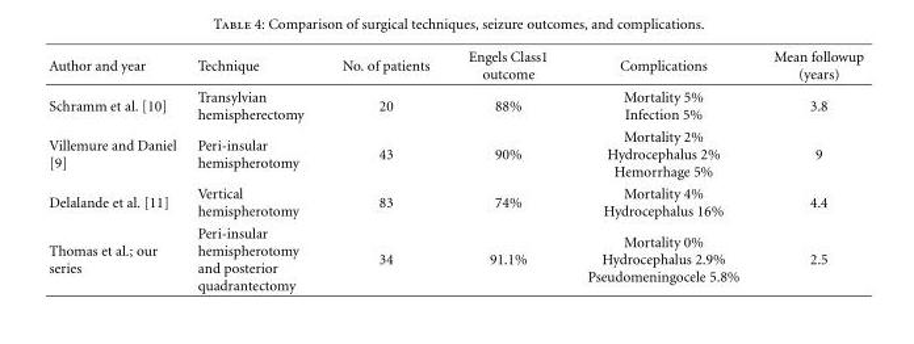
<table><thead><tr><td>Author and year</td><td>Technique</td><td>No. of patients</td><td>Engels Class1 outcome</td><td>Complications</td><td>Mean followup (years)</td></tr></thead><tbody><tr><td>Schramm et al. [10]</td><td>Transylvian hemispherectomy</td><td>20</td><td>88%</td><td>Mortality 5% Infection 5%</td><td>3.8</td></tr><tr><td>Villemure and Daniel [9]</td><td>Peri-insular hemispherotomy</td><td>43</td><td>90%</td><td>Mortality 2% Hydrocephalus 2% Hemorrhage 5%</td><td>9</td></tr><tr><td>Delalande et al. [11]</td><td>Vertical hemispherotomy</td><td>83</td><td>74%</td><td>Mortality 4% Hydrocephalus 16%</td><td>4.4</td></tr><tr><td>Thomas et al.; our series</td><td>Peri-insular hemispherotomy and posterior quadrantectomy</td><td>34</td><td>91.1%</td><td>Mortality 0% Hydrocephalus 2.9% Pseudomeningocele 5.8%</td><td>2.5</td></tr></tbody></table>